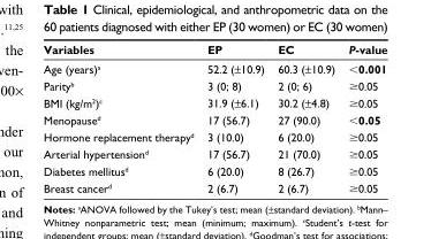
<table><thead><tr><td>Variables</td><td>EP</td><td>EC</td><td>P-value</td></tr></thead><tbody><tr><td>age (years)<sup>a</sup></td><td>52.2 (±10.9)</td><td>60.3 (±10.9)</td><td>&lt;0.001</td></tr><tr><td>Parity<sup>b</sup></td><td>3 (0; 8)</td><td>2 (0; 6)</td><td>≥0.05</td></tr><tr><td>BMi (kg/m<sup>2</sup>)<sup>c</sup></td><td>31.9 (±6.1)</td><td>30.2 (±4.8)</td><td>≥0.05</td></tr><tr><td>Menopause<sup>d</sup></td><td>17 (56.7)</td><td>27 (90.0)</td><td>&lt;0.05</td></tr><tr><td>hormone replacement therapy<sup>d</sup></td><td>3 (10.0)</td><td>6 (20.0)</td><td>≥0.05</td></tr><tr><td>arterial hypertension<sup>d</sup></td><td>17 (56.7)</td><td>21 (70.0)</td><td>≥0.05</td></tr><tr><td>Diabetes mellitus<sup>d</sup></td><td>6 (20.0)</td><td>8 (26.7)</td><td>≥0.05</td></tr><tr><td>Breast cancer<sup>d</sup></td><td>2 (6.7)</td><td>2 (6.7)</td><td>≥0.05</td></tr></tbody></table>